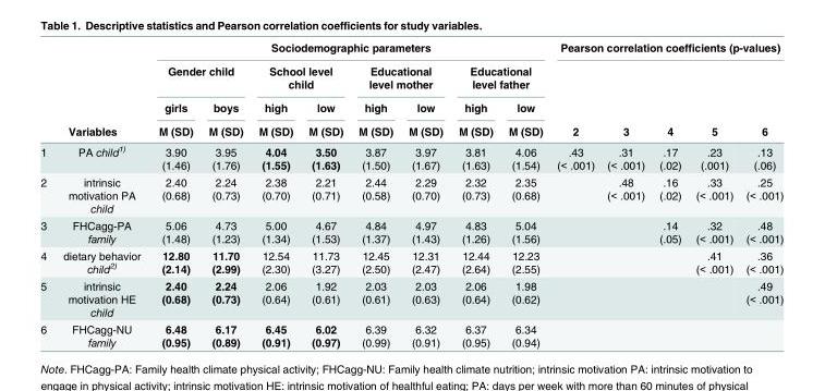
<table><thead><tr><td rowspan="3"></td><td rowspan="3"></td><td colspan="8">Sociodemographic parameters</td><td colspan="5">Pearson correlation coefficients (p-values)</td></tr><tr><td colspan="2">Gender child</td><td colspan="2">School level child</td><td colspan="2">Educational level mother</td><td colspan="2">Educational level father</td><td rowspan="3">2</td><td rowspan="3">3</td><td rowspan="3">4</td><td rowspan="3">5</td><td rowspan="3">6</td></tr><tr><td rowspan="2">girls M (SD)</td><td rowspan="2">boys M (SD)</td><td rowspan="2">high M (SD)</td><td rowspan="2">low M (SD)</td><td rowspan="2">high M (SD)</td><td rowspan="2">low M (SD)</td><td rowspan="2">high M (SD)</td><td rowspan="2">low M (SD)</td></tr><tr><td colspan="2">Variables</td></tr></thead><tbody><tr><td>1</td><td>PA child<sup>1)</sup></td><td>3.90 (1.46)</td><td>3.95 (1.76)</td><td>4.04 (1.55)</td><td>3.50 (1.63)</td><td>3.87 (1.50)</td><td>3.97 (1.67)</td><td>3.81 (1.63)</td><td>4.06 (1.54)</td><td>.43 (&lt; .001)</td><td>.31 (&lt; .001)</td><td>.17 (.02)</td><td>.23 (.001)</td><td>.13 (.06)</td></tr><tr><td>2</td><td>intrinsic motivation PA child</td><td>2.40 (0.68)</td><td>2.24 (0.73)</td><td>2.38 (0.70)</td><td>2.21 (0.71)</td><td>2.44 (0.58)</td><td>2.29 (0.70)</td><td>2.32 (0.73)</td><td>2.35 (0.68)</td><td></td><td>.48 (&lt; .001)</td><td>.16 (.02)</td><td>.33 (&lt; .001)</td><td>.25 (&lt; .001)</td></tr><tr><td>3</td><td>FHCagg-PA family</td><td>5.06 (1.48)</td><td>4.73 (1.23)</td><td>5.00 (1.34)</td><td>4.67 (1.53)</td><td>4.84 (1.37)</td><td>4.97 (1.43)</td><td>4.83 (1.26)</td><td>5.04 (1.56)</td><td></td><td></td><td>.14 (.05)</td><td>.32 (&lt; .001)</td><td>.48 (&lt; .001)</td></tr><tr><td>4</td><td>dietary behavior child<sup>2)</sup></td><td>12.80 (2.14)</td><td>11.70 (2.99)</td><td>12.54 (2.30)</td><td>11.73 (3.27)</td><td>12.45 (2.50)</td><td>12.31 (2.47)</td><td>12.44 (2.64)</td><td>12.23 (2.55)</td><td></td><td></td><td></td><td>.41 (&lt; .001)</td><td>.36 (&lt; .001)</td></tr><tr><td>5</td><td>intrinsic motivation HE child</td><td>2.40 (0.68)</td><td>2.24 (0.73)</td><td>2.06 (0.64)</td><td>1.92 (0.61)</td><td>2.03 (0.61)</td><td>2.03 (0.63)</td><td>2.06 (0.64)</td><td>1.98 (0.62)</td><td></td><td></td><td></td><td></td><td>.49 (&lt; .001)</td></tr><tr><td>6</td><td>FHCagg-NU family</td><td>6.48 (0.95)</td><td>6.17 (0.89)</td><td>6.45 (0.91)</td><td>6.02 (0.97)</td><td>6.39 (0.99)</td><td>6.32 (0.91)</td><td>6.37 (0.95)</td><td>6.34 (0.94)</td><td></td><td></td><td></td><td></td><td></td></tr></tbody></table>